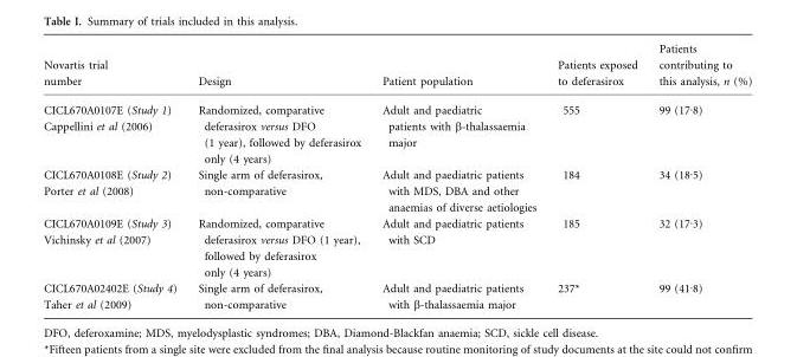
<table><thead><tr><td>Novartis trial number</td><td>Design</td><td>Patient population</td><td>Patients exposed to deferasirox</td><td>Patients contributing to this analysis, n (%)</td></tr></thead><tbody><tr><td>CICL670A0107E (Study 1) Cappellini et al (2006)</td><td>Randomized, comparative deferasirox versus DFO (1 year), followed by deferasirox only (4 years)</td><td>Adult and paediatric patients with β-thalassaemia major</td><td>555</td><td>99 (17Æ8)</td></tr><tr><td>CICL670A0108E (Study 2) Porter et al (2008)</td><td>Single arm of deferasirox, non-comparative</td><td>Adult and paediatric patients with MDS, DBA and other anaemias of diverse aetiologies</td><td>184</td><td>34 (18Æ5)</td></tr><tr><td>CICL670A0109E (Study 3) Vichinsky et al (2007)</td><td>Randomized, comparative deferasirox versus DFO (1 year), followed by deferasirox only (4 years)</td><td>Adult and paediatric patients with SCD</td><td>185</td><td>32 (17Æ3)</td></tr><tr><td>CICL670A02402E (Study 4) Taher et al (2009)</td><td>Single arm of deferasirox, non-comparative</td><td>Adult and paediatric patients with β-thalassaemia major</td><td>237*</td><td>99 (41Æ8)</td></tr></tbody></table>